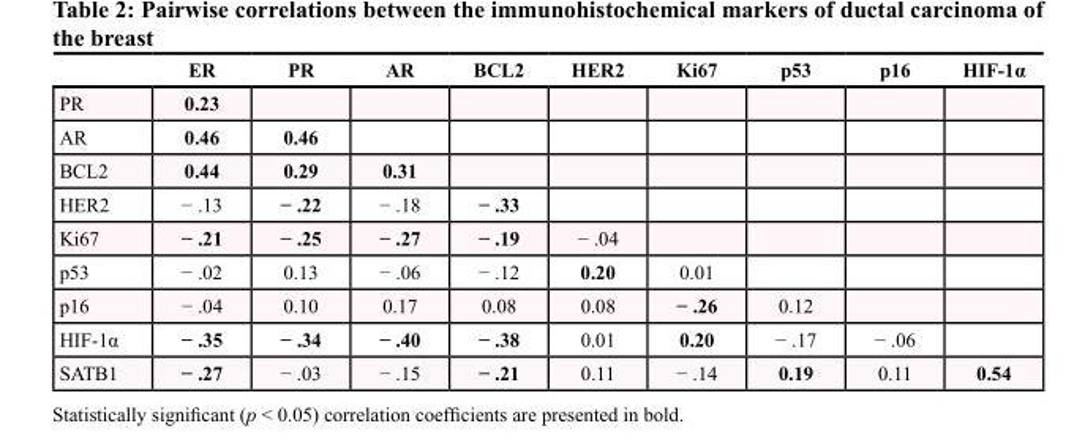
<table><thead><tr><td></td><td>ER</td><td>PR</td><td>AR</td><td>BCL2</td><td>HER2</td><td>Ki67</td><td>p53</td><td>p16</td><td>HIF-1α</td></tr></thead><tbody><tr><td>PR</td><td>0.23</td><td></td><td></td><td></td><td></td><td></td><td></td><td></td><td></td></tr><tr><td>AR</td><td>0.46</td><td>0.46</td><td></td><td></td><td></td><td></td><td></td><td></td><td></td></tr><tr><td>BCL2</td><td>0.44</td><td>0.29</td><td>0.31</td><td></td><td></td><td></td><td></td><td></td><td></td></tr><tr><td>HER2</td><td>− .13</td><td>− .22</td><td>− .18</td><td>− .33</td><td></td><td></td><td></td><td></td><td></td></tr><tr><td>Ki67</td><td>− .21</td><td>− .25</td><td>− .27</td><td>− .19</td><td>− .04</td><td></td><td></td><td></td><td></td></tr><tr><td>p53</td><td>− .02</td><td>0.13</td><td>− .06</td><td>− .12</td><td>0.20</td><td>0.01</td><td></td><td></td><td></td></tr><tr><td>p16</td><td>− .04</td><td>0.10</td><td>0.17</td><td>0.08</td><td>0.08</td><td>− .26</td><td>0.12</td><td></td><td></td></tr><tr><td>HIF-1α</td><td>− .35</td><td>− .34</td><td>− .40</td><td>− .38</td><td>0.01</td><td>0.20</td><td>− .17</td><td>− .06</td><td></td></tr><tr><td>SATB1</td><td>− .27</td><td>− .03</td><td>− .15</td><td>− .21</td><td>0.11</td><td>− .14</td><td>0.19</td><td>0.11</td><td>0.54</td></tr></tbody></table>